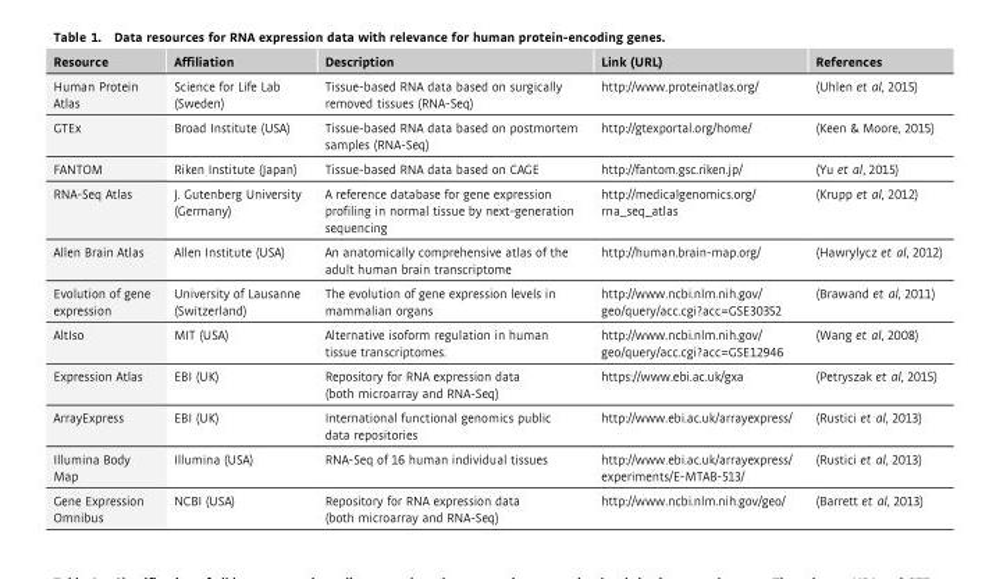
<table><thead><tr><td>Resource</td><td>Affiliation</td><td>Description</td><td>Link (URL)</td><td>References</td></tr></thead><tbody><tr><td>Human Protein Atlas</td><td>Science for Life Lab (Sweden)</td><td>Tissue-based RNA data based on surgically removed tissues (RNA-Seq)</td><td>http://www.proteinatlas.org/</td><td>(Uhlen et al, 2015)</td></tr><tr><td>GTEx</td><td>Broad Institute (USA)</td><td>Tissue-based RNA data based on postmortem samples (RNA-Seq)</td><td>http://gtexportal.org/home/</td><td>(Keen &amp; Moore, 2015)</td></tr><tr><td>FANTOM</td><td>Riken Institute (Japan)</td><td>Tissue-based RNA data based on CAGE</td><td>http://fantom.gsc.riken.jp/</td><td>(Yu et al, 2015)</td></tr><tr><td>RNA-Seq Atlas</td><td>J. Gutenberg University (Germany)</td><td>A reference database for gene expression profiling in normal tissue by next-generation sequencing</td><td>http://medicalgenomics.org/ rna_seq_atlas</td><td>(Krupp et al, 2012)</td></tr><tr><td>Allen Brain Atlas</td><td>Allen Institute (USA)</td><td>An anatomically comprehensive atlas of the adult human brain transcriptome</td><td>http://human.brain-map.org/</td><td>(Hawrylycz et al, 2012)</td></tr><tr><td>Evolution of gene expression</td><td>University of Lausanne (Switzerland)</td><td>The evolution of gene expression levels in mammalian organs</td><td>http://www.ncbi.nlm.nih.gov/ geo/query/acc.cgi?acc=GSE30352</td><td>(Brawand et al, 2011)</td></tr><tr><td>AltIso</td><td>MIT (USA)</td><td>Alternative isoform regulation in human tissue transcriptomes.</td><td>http://www.ncbi.nlm.nih.gov/ geo/query/acc.cgi?acc=GSE12946</td><td>(Wang et al, 2008)</td></tr><tr><td>Expression Atlas</td><td>EBI (UK)</td><td>Repository for RNA expression data (both microarray and RNA-Seq)</td><td>https://www.ebi.ac.uk/gxa</td><td>(Petryszak et al, 2015)</td></tr><tr><td>ArrayExpress</td><td>EBI (UK)</td><td>International functional genomics public data repositories</td><td>http://www.ebi.ac.uk/arrayexpress/</td><td>(Rustici et al, 2013)</td></tr><tr><td>Illumina Body Map</td><td>Illumina (USA)</td><td>RNA-Seq of 16 human individual tissues</td><td>http://www.ebi.ac.uk/arrayexpress/ experiments/E-MTAB-513/</td><td>(Rustici et al, 2013)</td></tr><tr><td>Gene Expression Omnibus</td><td>NCBI (USA)</td><td>Repository for RNA expression data (both microarray and RNA-Seq)</td><td>http://www.ncbi.nlm.nih.gov/geo/</td><td>(Barrett et al, 2013)</td></tr></tbody></table>